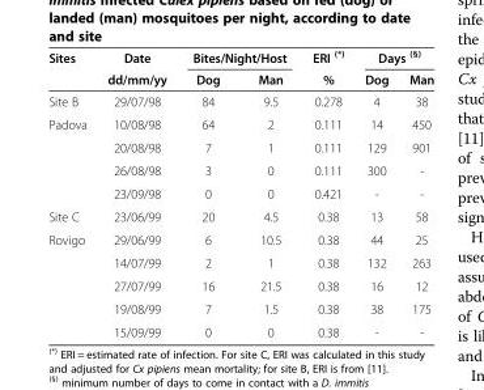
<table><thead><tr><td rowspan="2">Sites</td><td rowspan="2">Date dd/mm/yy</td><td colspan="2">Bites/Night/Host</td><td rowspan="2">ERI <sup>(*)</sup> %</td><td colspan="2">Days <sup>(§)</sup></td></tr><tr><td>Dog</td><td>Man</td><td>Dog</td><td>Man</td></tr></thead><tbody><tr><td>Site B</td><td>29/07/98</td><td>84</td><td>9.5</td><td>0.278</td><td>4</td><td>38</td></tr><tr><td rowspan="4">Padova</td><td>10/08/98</td><td>64</td><td>2</td><td>0.111</td><td>14</td><td>450</td></tr><tr><td>20/08/98</td><td>7</td><td>1</td><td>0.111</td><td>129</td><td>901</td></tr><tr><td>26/08/98</td><td>3</td><td>0</td><td>0.111</td><td>300</td><td>-</td></tr><tr><td>23/09/98</td><td>0</td><td>0</td><td>0.421</td><td>-</td><td>-</td></tr><tr><td>Site C</td><td>23/06/99</td><td>20</td><td>4.5</td><td>0.38</td><td>13</td><td>58</td></tr><tr><td rowspan="5">Rovigo</td><td>29/06/99</td><td>6</td><td>10.5</td><td>0.38</td><td>44</td><td>25</td></tr><tr><td>14/07/99</td><td>2</td><td>1</td><td>0.38</td><td>132</td><td>263</td></tr><tr><td>27/07/99</td><td>16</td><td>21.5</td><td>0.38</td><td>16</td><td>12</td></tr><tr><td>19/08/99</td><td>7</td><td>1.5</td><td>0.38</td><td>38</td><td>175</td></tr><tr><td>15/09/99</td><td>0</td><td>0</td><td>0.38</td><td>-</td><td>-</td></tr></tbody></table>